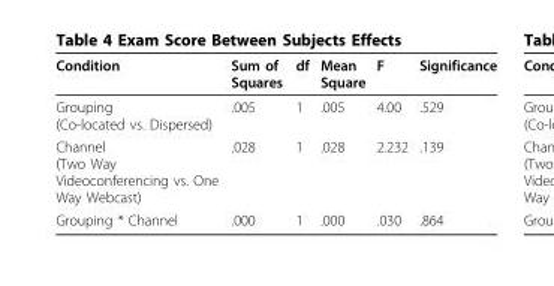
<table><thead><tr><td>Condition</td><td>Sum of Squares</td><td>df</td><td>Mean Square</td><td>F</td><td>Significance</td></tr></thead><tbody><tr><td>Grouping (Co-located vs. Dispersed)</td><td>.005</td><td>1</td><td>.005</td><td>4.00</td><td>.529</td></tr><tr><td>Channel (Two Way Videoconferencing vs. One Way Webcast)</td><td>.028</td><td>1</td><td>.028</td><td>2.232</td><td>.139</td></tr><tr><td>Grouping * Channel</td><td>.000</td><td>1</td><td>.000</td><td>.030</td><td>.864</td></tr></tbody></table>